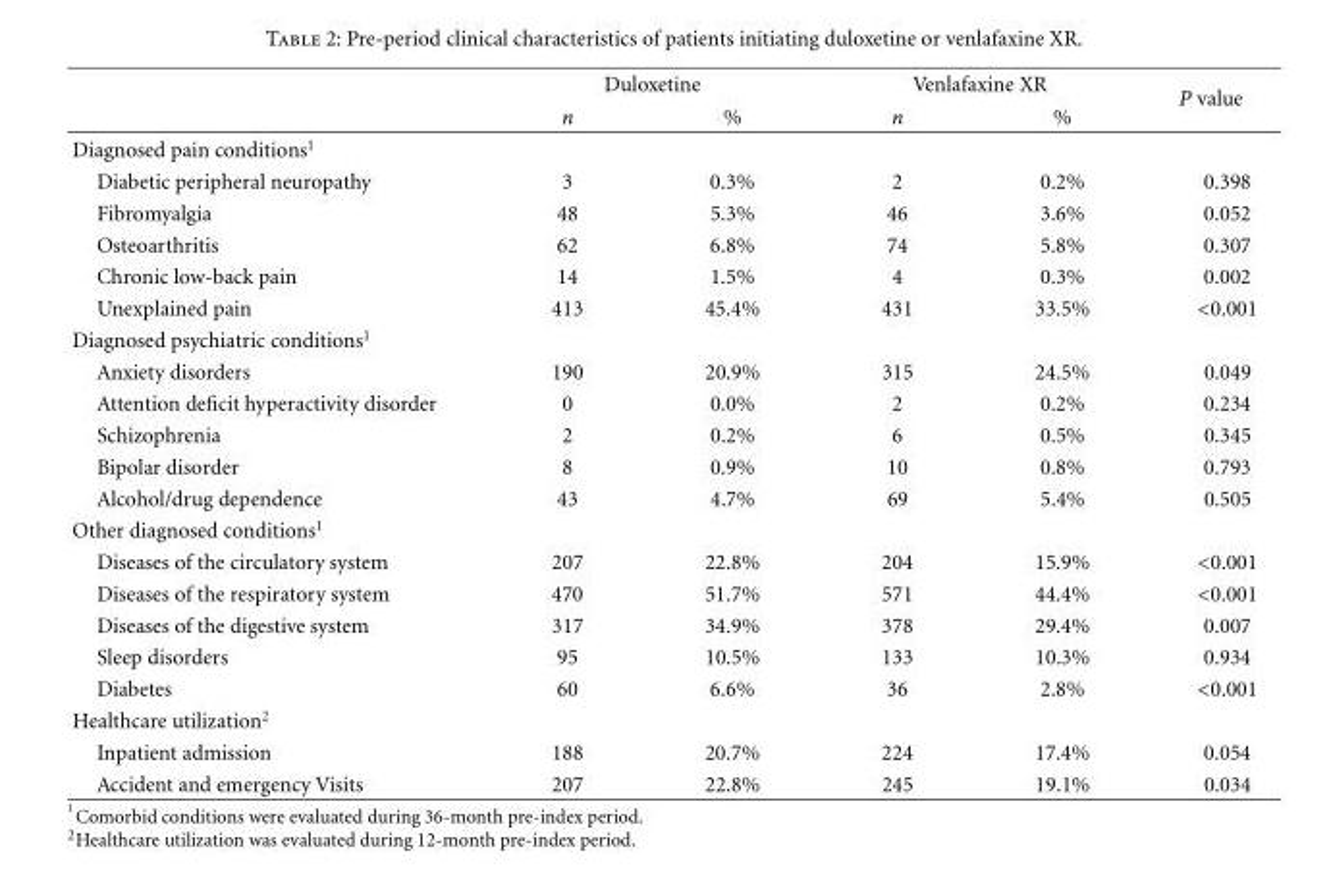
<table><thead><tr><td rowspan="2"></td><td colspan="2">Duloxetine</td><td colspan="2">Venlafaxine XR</td><td rowspan="2">P value</td></tr><tr><td>n</td><td>%</td><td>n</td><td>%</td></tr></thead><tbody><tr><td colspan="6">Diagnosed pain conditions<sup>1</sup></td></tr><tr><td>Diabetic peripheral neuropathy</td><td>3</td><td>0.3%</td><td>2</td><td>0.2%</td><td>0.398</td></tr><tr><td>Fibromyalgia</td><td>48</td><td>5.3%</td><td>46</td><td>3.6%</td><td>0.052</td></tr><tr><td>Osteoarthritis</td><td>62</td><td>6.8%</td><td>74</td><td>5.8%</td><td>0.307</td></tr><tr><td>Chronic low-back pain</td><td>14</td><td>1.5%</td><td>4</td><td>0.3%</td><td>0.002</td></tr><tr><td>Unexplained pain</td><td>413</td><td>45.4%</td><td>431</td><td>33.5%</td><td>&lt;0.001</td></tr><tr><td colspan="6">Diagnosed psychiatric conditions<sup>1</sup></td></tr><tr><td>Anxiety disorders</td><td>190</td><td>20.9%</td><td>315</td><td>24.5%</td><td>0.049</td></tr><tr><td>Attention deficit hyperactivity disorder</td><td>0</td><td>0.0%</td><td>2</td><td>0.2%</td><td>0.234</td></tr><tr><td>Schizophrenia</td><td>2</td><td>0.2%</td><td>6</td><td>0.5%</td><td>0.345</td></tr><tr><td>Bipolar disorder</td><td>8</td><td>0.9%</td><td>10</td><td>0.8%</td><td>0.793</td></tr><tr><td>Alcohol/drug dependence</td><td>43</td><td>4.7%</td><td>69</td><td>5.4%</td><td>0.505</td></tr><tr><td colspan="6">Other diagnosed conditions<sup>1</sup></td></tr><tr><td>Diseases of the circulatory system</td><td>207</td><td>22.8%</td><td>204</td><td>15.9%</td><td>&lt;0.001</td></tr><tr><td>Diseases of the respiratory system</td><td>470</td><td>51.7%</td><td>571</td><td>44.4%</td><td>&lt;0.001</td></tr><tr><td>Diseases of the digestive system</td><td>317</td><td>34.9%</td><td>378</td><td>29.4%</td><td>0.007</td></tr><tr><td>Sleep disorders</td><td>95</td><td>10.5%</td><td>133</td><td>10.3%</td><td>0.934</td></tr><tr><td>Diabetes</td><td>60</td><td>6.6%</td><td>36</td><td>2.8%</td><td>&lt;0.001</td></tr><tr><td colspan="6">Healthcare utilization<sup>2</sup></td></tr><tr><td>Inpatient admission</td><td>188</td><td>20.7%</td><td>224</td><td>17.4%</td><td>0.054</td></tr><tr><td>Accident and emergency Visits</td><td>207</td><td>22.8%</td><td>245</td><td>19.1%</td><td>0.034</td></tr></tbody></table>